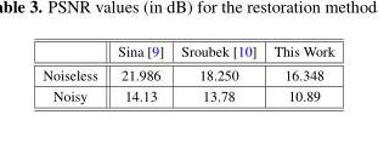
<table><thead><tr><td></td><td>Sina [9]</td><td>Sroubek [10]</td><td>This Work</td></tr></thead><tbody><tr><td>Noiseless</td><td>21.986</td><td>18.250</td><td>16.348</td></tr><tr><td>Noisy</td><td>14.13</td><td>13.78</td><td>10.89</td></tr></tbody></table>